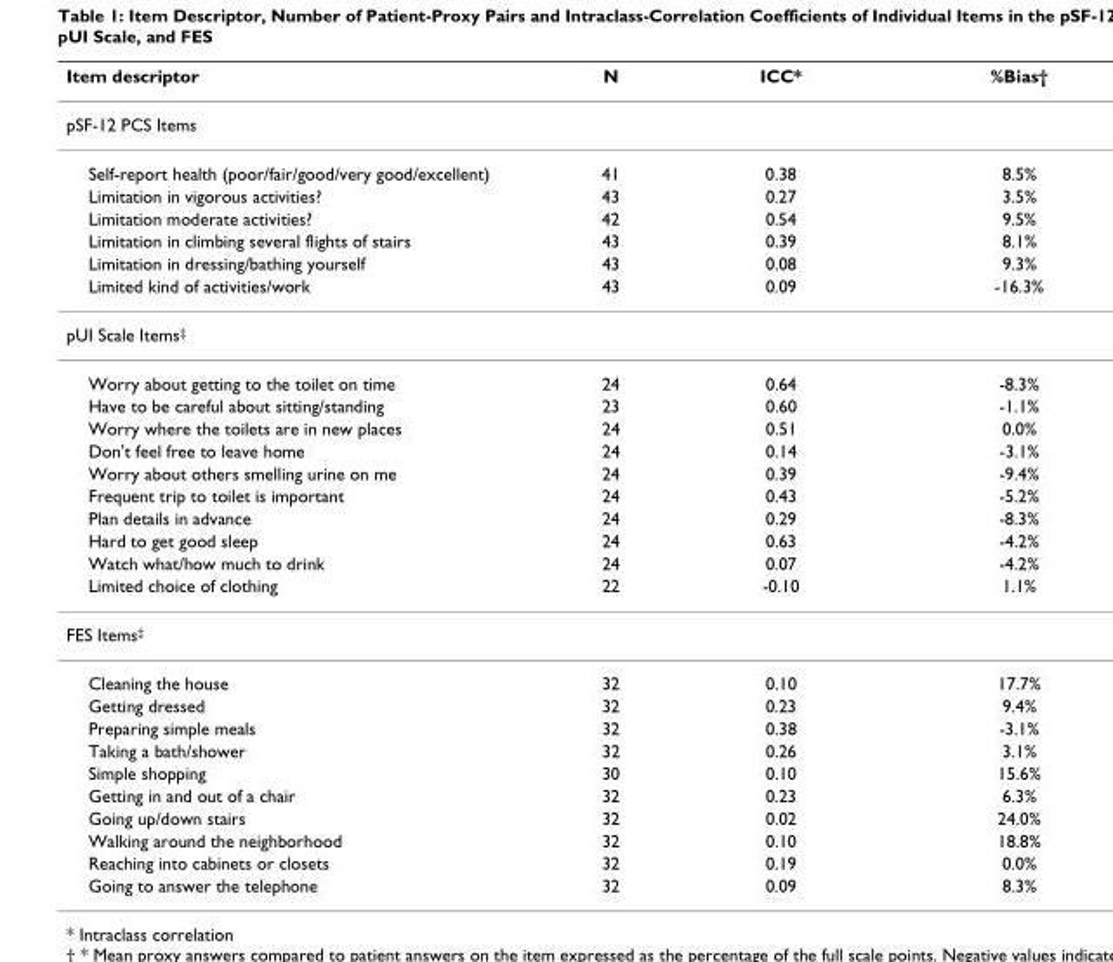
<table><thead><tr><td>Item descriptor</td><td>N</td><td>ICC*</td><td>%Bias†</td></tr></thead><tbody><tr><td colspan="4">pSF-12 PCS Items</td></tr><tr><td>Self-report health (poor/fair/good/very good/excellent)</td><td>41</td><td>0.38</td><td>8.5%</td></tr><tr><td>Limitation in vigorous activities?</td><td>43</td><td>0.27</td><td>3.5%</td></tr><tr><td>Limitation moderate activities?</td><td>42</td><td>0.54</td><td>9.5%</td></tr><tr><td>Limitation in climbing several flights of stairs</td><td>43</td><td>0.39</td><td>8.1%</td></tr><tr><td>Limitation in dressing/bathing yourself</td><td>43</td><td>0.08</td><td>9.3%</td></tr><tr><td>Limited kind of activities/work</td><td>43</td><td>0.09</td><td>-16.3%</td></tr><tr><td colspan="4">pUI Scale Items<sup>‡</sup></td></tr><tr><td>Worry about getting to the toilet on time</td><td>24</td><td>0.64</td><td>-8.3%</td></tr><tr><td>Have to be careful about sitting/standing</td><td>23</td><td>0.60</td><td>-1.1%</td></tr><tr><td>Worry where the toilets are in new places</td><td>24</td><td>0.51</td><td>0.0%</td></tr><tr><td>Don&#x27;t feel free to leave home</td><td>24</td><td>0.14</td><td>-3.1%</td></tr><tr><td>Worry about others smelling urine on me</td><td>24</td><td>0.39</td><td>-9.4%</td></tr><tr><td>Frequent trip to toilet is important</td><td>24</td><td>0.43</td><td>-5.2%</td></tr><tr><td>Plan details in advance</td><td>24</td><td>0.29</td><td>-8.3%</td></tr><tr><td>Hard to get good sleep</td><td>24</td><td>0.63</td><td>-4.2%</td></tr><tr><td>Watch what/how much to drink</td><td>24</td><td>0.07</td><td>-4.2%</td></tr><tr><td>Limited choice of clothing</td><td>22</td><td>-0.10</td><td>1.1%</td></tr><tr><td colspan="4">FES Items<sup>‡</sup></td></tr><tr><td>Cleaning the house</td><td>32</td><td>0.10</td><td>17.7%</td></tr><tr><td>Getting dressed</td><td>32</td><td>0.23</td><td>9.4%</td></tr><tr><td>Preparing simple meals</td><td>32</td><td>0.38</td><td>-3.1%</td></tr><tr><td>Taking a bath/shower</td><td>32</td><td>0.26</td><td>3.1%</td></tr><tr><td>Simple shopping</td><td>30</td><td>0.10</td><td>15.6%</td></tr><tr><td>Getting in and out of a chair</td><td>32</td><td>0.23</td><td>6.3%</td></tr><tr><td>Going up/down stairs</td><td>32</td><td>0.02</td><td>24.0%</td></tr><tr><td>Walking around the neighborhood</td><td>32</td><td>0.10</td><td>18.8%</td></tr><tr><td>Reaching into cabinets or closets</td><td>32</td><td>0.19</td><td>0.0%</td></tr><tr><td>Going to answer the telephone</td><td>32</td><td>0.09</td><td>8.3%</td></tr></tbody></table>